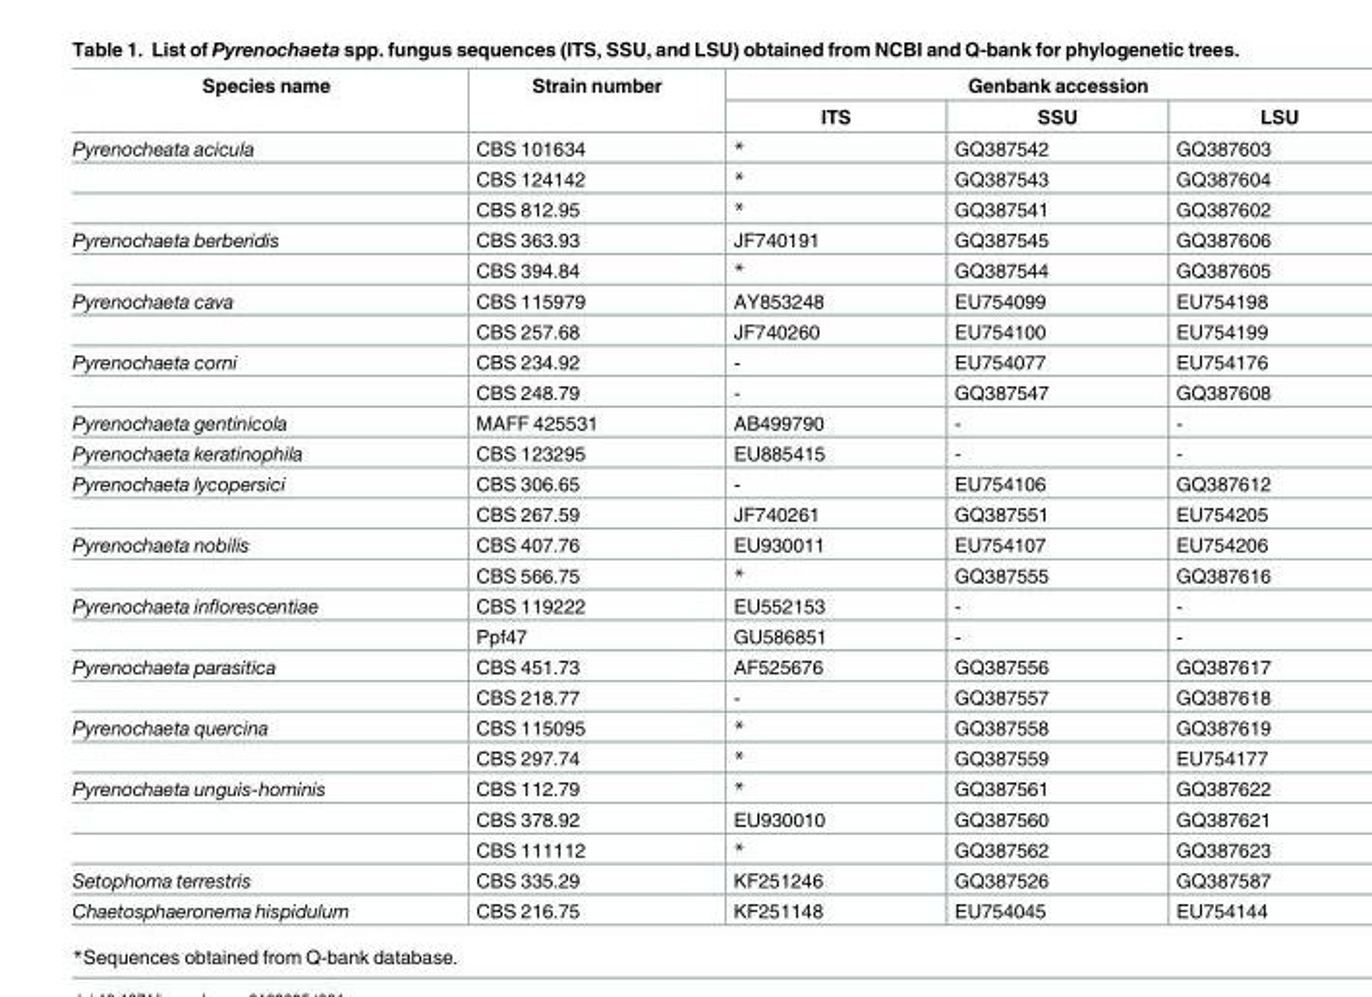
<table><thead><tr><td rowspan="2">Species name</td><td rowspan="2">Strain number</td><td colspan="3">Genbank accession</td></tr><tr><td>ITS</td><td>SSU</td><td>LSU</td></tr></thead><tbody><tr><td rowspan="3">Pyrenocheata acicula</td><td>CBS 101634</td><td>*</td><td>GQ387542</td><td>GQ387603</td></tr><tr><td>CBS 124142</td><td>*</td><td>GQ387543</td><td>GQ387604</td></tr><tr><td>CBS 812.95</td><td>*</td><td>GQ387541</td><td>GQ387602</td></tr><tr><td rowspan="2">Pyrenochaeta berberidis</td><td>CBS 363.93</td><td>JF740191</td><td>GQ387545</td><td>GQ387606</td></tr><tr><td>CBS 394.84</td><td>*</td><td>GQ387544</td><td>GQ387605</td></tr><tr><td rowspan="2">Pyrenochaeta cava</td><td>CBS 115979</td><td>AY853248</td><td>EU754099</td><td>EU754198</td></tr><tr><td>CBS 257.68</td><td>JF740260</td><td>EU754100</td><td>EU754199</td></tr><tr><td rowspan="2">Pyrenochaeta corni</td><td>CBS 234.92</td><td>-</td><td>EU754077</td><td>EU754176</td></tr><tr><td>CBS 248.79</td><td>-</td><td>GQ387547</td><td>GQ387608</td></tr><tr><td>Pyrenochaeta gentinicola</td><td>MAFF 425531</td><td>AB499790</td><td>-</td><td>-</td></tr><tr><td>Pyrenochaeta keratinophila</td><td>CBS 123295</td><td>EU885415</td><td>-</td><td>-</td></tr><tr><td rowspan="2">Pyrenochaeta lycopersici</td><td>CBS 306.65</td><td>-</td><td>EU754106</td><td>GQ387612</td></tr><tr><td>CBS 267.59</td><td>JF740261</td><td>GQ387551</td><td>EU754205</td></tr><tr><td rowspan="2">Pyrenochaeta nobilis</td><td>CBS 407.76</td><td>EU930011</td><td>EU754107</td><td>EU754206</td></tr><tr><td>CBS 566.75</td><td>*</td><td>GQ387555</td><td>GQ387616</td></tr><tr><td rowspan="2">Pyrenochaeta inflorescentiae</td><td>CBS 119222</td><td>EU552153</td><td>-</td><td>-</td></tr><tr><td>Ppf47</td><td>GU586851</td><td>-</td><td>-</td></tr><tr><td rowspan="2">Pyrenochaeta parasitica</td><td>CBS 451.73</td><td>AF525676</td><td>GQ387556</td><td>GQ387617</td></tr><tr><td>CBS 218.77</td><td>-</td><td>GQ387557</td><td>GQ387618</td></tr><tr><td rowspan="2">Pyrenochaeta quercina</td><td>CBS 115095</td><td>*</td><td>GQ387558</td><td>GQ387619</td></tr><tr><td>CBS 297.74</td><td>*</td><td>GQ387559</td><td>EU754177</td></tr><tr><td rowspan="3">Pyrenochaeta unguis-hominis</td><td>CBS 112.79</td><td>*</td><td>GQ387561</td><td>GQ387622</td></tr><tr><td>CBS 378.92</td><td>EU930010</td><td>GQ387560</td><td>GQ387621</td></tr><tr><td>CBS 111112</td><td>*</td><td>GQ387562</td><td>GQ387623</td></tr><tr><td>Setophoma terrestris</td><td>CBS 335.29</td><td>KF251246</td><td>GQ387526</td><td>GQ387587</td></tr><tr><td>Chaetosphaeronema hispidulum</td><td>CBS 216.75</td><td>KF251148</td><td>EU754045</td><td>EU754144</td></tr></tbody></table>